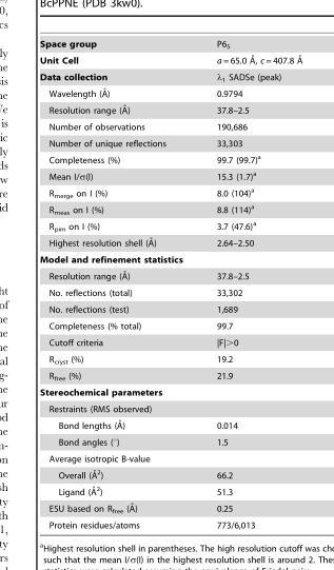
<table><tbody><tr><td>Space group</td><td>P6<sub>5</sub></td></tr><tr><td>Unit Cell</td><td>a = 65.0 A˚, c = 407.8</td></tr><tr><td>Data collection</td><td>λ<sub>1</sub> SADSe (peak)</td></tr><tr><td>Wavelength (A˚)</td><td>0.9794</td></tr><tr><td>Resolution range (A˚)</td><td>37.8–2.5</td></tr><tr><td>Number of observations</td><td>190,686</td></tr><tr><td>Number of unique reflections</td><td>33,303</td></tr><tr><td>Completeness (%)</td><td>99.7 (99.7)<sup>a</sup></td></tr><tr><td>Mean I/σ(I)</td><td>15.3 (1.7)<sup>a</sup></td></tr><tr><td>R<sub>merge</sub> on I (%)</td><td>8.0 (104)<sup>a</sup></td></tr><tr><td>R<sub>meas</sub> on I (%)</td><td>8.8 (114)<sup>a</sup></td></tr><tr><td>R<sub>pim</sub> on I (%)</td><td>3.7 (47.6)<sup>a</sup></td></tr><tr><td>Highest resolution shell (A˚)</td><td>2.64–2.50</td></tr><tr><td colspan="2">Model and refinement statistics</td></tr><tr><td>Resolution range (A˚)</td><td>37.8–2.5</td></tr><tr><td>No. reflections (total)</td><td>33,302</td></tr><tr><td>No. reflections (test)</td><td>1,689</td></tr><tr><td>Completeness (% total)</td><td>99.7</td></tr><tr><td>Cutoff criteria</td><td>|F|&gt;0</td></tr><tr><td>R<sub>cryst</sub> (%)</td><td>19.2</td></tr><tr><td>R<sub>free</sub> (%)</td><td>21.9</td></tr><tr><td colspan="2">Stereochemical parameters</td></tr><tr><td colspan="2">Restraints (RMS observed)</td></tr><tr><td>Bond lengths (A˚)</td><td>0.014</td></tr><tr><td>Bond angles (°)</td><td>1.5</td></tr><tr><td colspan="2">Average isotropic B-value</td></tr><tr><td>Overall (A˚2)</td><td>66.2</td></tr><tr><td>Ligand (A˚2)</td><td>51.3</td></tr><tr><td>ESU based on Rfree (A˚)</td><td>0.25</td></tr><tr><td>Protein residues/atoms</td><td>773/6,013</td></tr></tbody></table>